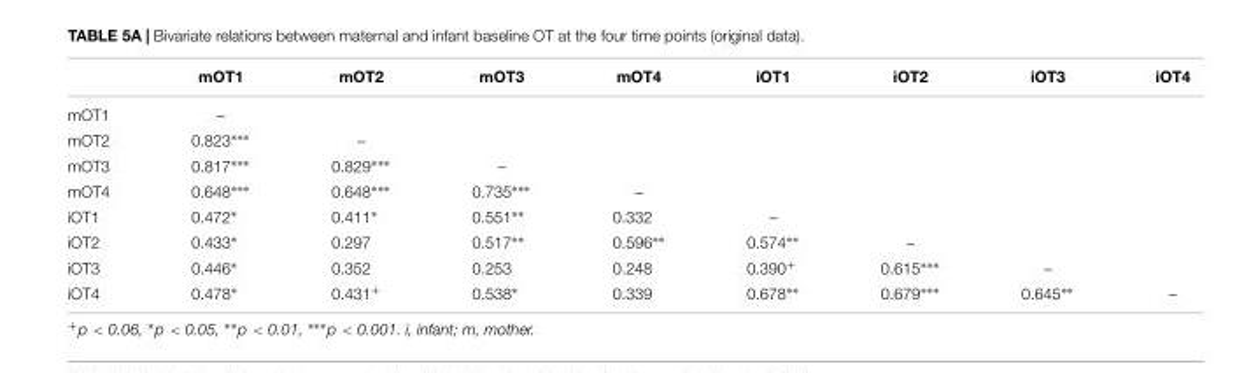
<table><thead><tr><td></td><td>mOT1</td><td>mOT2</td><td>mOT3</td><td>mOT4</td><td>iOT1</td><td>iOT2</td><td>iOT3</td><td>iOT4</td></tr></thead><tbody><tr><td>mOT1</td><td>–</td><td></td><td></td><td></td><td></td><td></td><td></td><td></td></tr><tr><td>mOT2</td><td>0.823∗∗∗</td><td>–</td><td></td><td></td><td></td><td></td><td></td><td></td></tr><tr><td>mOT3</td><td>0.817∗∗∗</td><td>0.829∗∗∗</td><td>–</td><td></td><td></td><td></td><td></td><td></td></tr><tr><td>mOT4</td><td>0.648∗∗∗</td><td>0.648∗∗∗</td><td>0.735∗∗∗</td><td>–</td><td></td><td></td><td></td><td></td></tr><tr><td>iOT1</td><td>0.472∗</td><td>0.411∗</td><td>0.551∗∗</td><td>0.332</td><td>–</td><td></td><td></td><td></td></tr><tr><td>iOT2</td><td>0.433∗</td><td>0.297</td><td>0.517∗∗</td><td>0.596∗∗</td><td>0.574∗∗</td><td>–</td><td></td><td></td></tr><tr><td>iOT3</td><td>0.446∗</td><td>0.352</td><td>0.253</td><td>0.248</td><td>0.390<sup>+</sup></td><td>0.615∗∗∗</td><td>–</td><td></td></tr><tr><td>iOT4</td><td>0.478∗</td><td>0.431<sup>+</sup></td><td>0.538∗</td><td>0.339</td><td>0.678∗∗</td><td>0.679∗∗∗</td><td>0.645∗∗</td><td>–</td></tr></tbody></table>